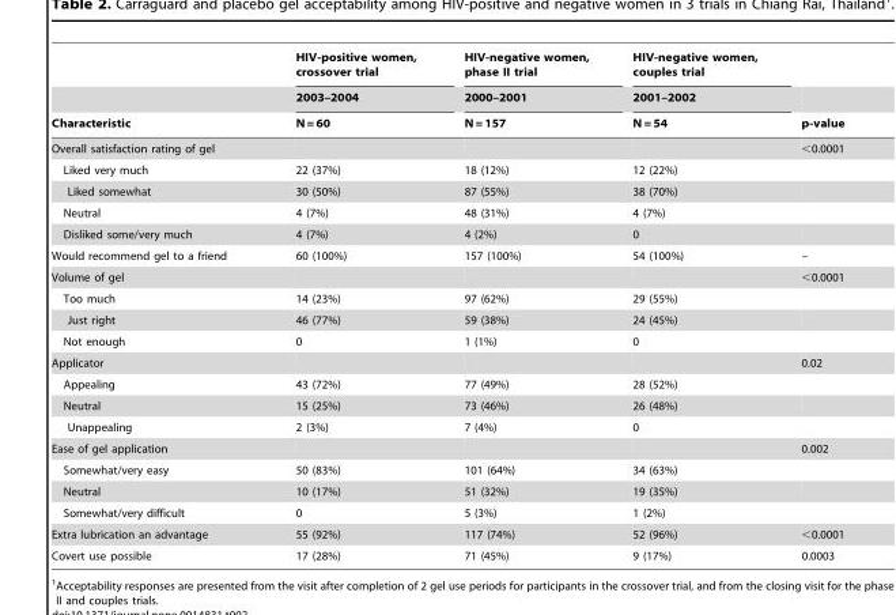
<table><thead><tr><td rowspan="3">Characteristic</td><td rowspan="3">HIV-positive women, crossover trial 2003–2004 N = 60</td><td rowspan="3">HIV-negative women, phase II trial 2000–2001 N = 157</td><td rowspan="3">HIV-negative women, couples trial 2001–2002 N = 54</td><td rowspan="3">p-value</td></tr><tr></tr><tr></tr></thead><tbody><tr><td>Overall satisfaction rating of gel</td><td></td><td></td><td></td><td>&lt;0.0001</td></tr><tr><td>Liked very much</td><td>22 (37%)</td><td>18 (12%)</td><td>12 (22%)</td><td></td></tr><tr><td>Liked somewhat</td><td>30 (50%)</td><td>87 (55%)</td><td>38 (70%)</td><td></td></tr><tr><td>Neutral</td><td>4 (7%)</td><td>48 (31%)</td><td>4 (7%)</td><td></td></tr><tr><td>Disliked some/very much</td><td>4 (7%)</td><td>4 (2%)</td><td>0</td><td></td></tr><tr><td>Would recommend gel to a friend</td><td>60 (100%)</td><td>157 (100%)</td><td>54 (100%)</td><td>–</td></tr><tr><td>Volume of gel</td><td></td><td></td><td></td><td>&lt;0.0001</td></tr><tr><td>Too much</td><td>14 (23%)</td><td>97 (62%)</td><td>29 (55%)</td><td></td></tr><tr><td>Just right</td><td>46 (77%)</td><td>59 (38%)</td><td>24 (45%)</td><td></td></tr><tr><td>Not enough</td><td>0</td><td>1 (1%)</td><td>0</td><td></td></tr><tr><td>Applicator</td><td></td><td></td><td></td><td>0.02</td></tr><tr><td>Appealing</td><td>43 (72%)</td><td>77 (49%)</td><td>28 (52%)</td><td></td></tr><tr><td>Neutral</td><td>15 (25%)</td><td>73 (46%)</td><td>26 (48%)</td><td></td></tr><tr><td>Unappealing</td><td>2 (3%)</td><td>7 (4%)</td><td>0</td><td></td></tr><tr><td>Ease of gel application</td><td></td><td></td><td></td><td>0.002</td></tr><tr><td>Somewhat/very easy</td><td>50 (83%)</td><td>101 (64%)</td><td>34 (63%)</td><td></td></tr><tr><td>Neutral</td><td>10 (17%)</td><td>51 (32%)</td><td>19 (35%)</td><td></td></tr><tr><td>Somewhat/very difficult</td><td>0</td><td>5 (3%)</td><td>1 (2%)</td><td></td></tr><tr><td>Extra lubrication an advantage</td><td>55 (92%)</td><td>117 (74%)</td><td>52 (96%)</td><td>&lt;0.0001</td></tr><tr><td>Covert use possible</td><td>17 (28%)</td><td>71 (45%)</td><td>9 (17%)</td><td>0.0003</td></tr></tbody></table>